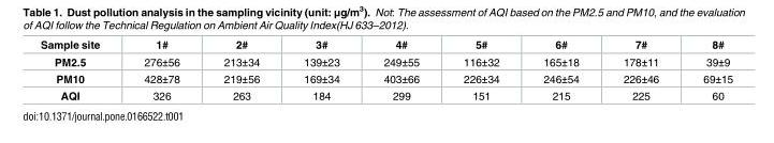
<table><thead><tr><td>Sample site</td><td>1#</td><td>2#</td><td>3#</td><td>4#</td><td>5#</td><td>6#</td><td>7#</td><td>8#</td></tr></thead><tbody><tr><td>PM2.5</td><td>276±56</td><td>213±34</td><td>139±23</td><td>249±55</td><td>116±32</td><td>165±18</td><td>178±11</td><td>39±9</td></tr><tr><td>PM10</td><td>428±78</td><td>219±56</td><td>169±34</td><td>403±66</td><td>226±34</td><td>246±54</td><td>226±46</td><td>69±15</td></tr><tr><td>AQI</td><td>326</td><td>263</td><td>184</td><td>299</td><td>151</td><td>215</td><td>225</td><td>60</td></tr></tbody></table>